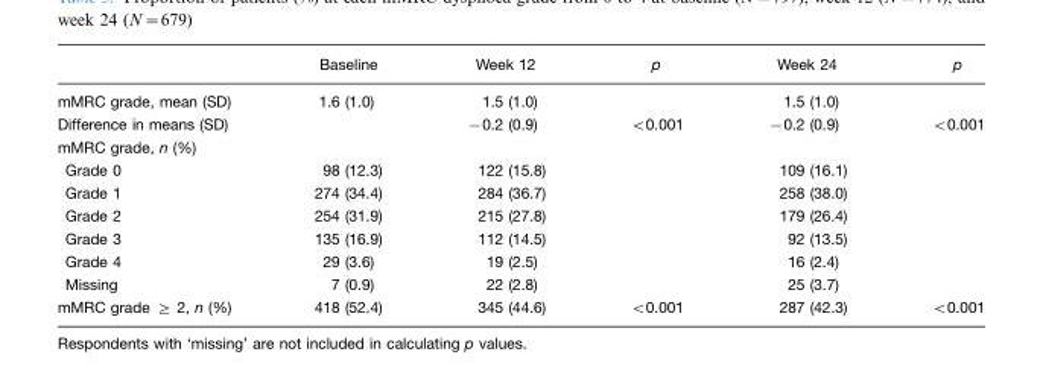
<table><thead><tr><td></td><td>Baseline</td><td>Week 12</td><td>p</td><td>Week 24</td><td>p</td></tr></thead><tbody><tr><td>mMRC grade, mean (SD)</td><td>1.6 (1.0)</td><td>1.5 (1.0)</td><td></td><td>1.5 (1.0)</td><td></td></tr><tr><td>Difference in means (SD)</td><td></td><td>−0.2 (0.9)</td><td>&lt;0.001</td><td>−0.2 (0.9)</td><td>&lt;0.001</td></tr><tr><td colspan="6">mMRC grade, n (%)</td></tr><tr><td>Grade 0</td><td>98 (12.3)</td><td>122 (15.8)</td><td></td><td>109 (16.1)</td><td></td></tr><tr><td>Grade 1</td><td>274 (34.4)</td><td>284 (36.7)</td><td></td><td>258 (38.0)</td><td></td></tr><tr><td>Grade 2</td><td>254 (31.9)</td><td>215 (27.8)</td><td></td><td>179 (26.4)</td><td></td></tr><tr><td>Grade 3</td><td>135 (16.9)</td><td>112 (14.5)</td><td></td><td>92 (13.5)</td><td></td></tr><tr><td>Grade 4</td><td>29 (3.6)</td><td>19 (2.5)</td><td></td><td>16 (2.4)</td><td></td></tr><tr><td>Missing</td><td>7 (0.9)</td><td>22 (2.8)</td><td></td><td>25 (3.7)</td><td></td></tr><tr><td>mMRC grade ≥ 2, n (%)</td><td>418 (52.4)</td><td>345 (44.6)</td><td>&lt;0.001</td><td>287 (42.3)</td><td>&lt;0.001</td></tr></tbody></table>